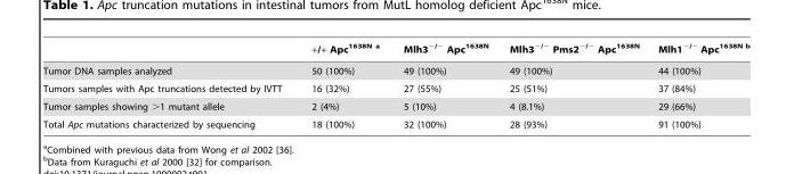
<table><thead><tr><td></td><td>+/+ Apc<sup>1638N</sup> a</td><td>Mlh3<sup>−/−</sup> Apc<sup>1638N</sup></td><td>Mlh3<sup>−/−</sup> Pms2<sup>−/−</sup> Apc<sup>1638N</sup></td><td>Mlh1<sup>−/−</sup> Apc<sup>1638N</sup> b</td></tr></thead><tbody><tr><td>Tumor DNA samples analyzed</td><td>50 (100%)</td><td>49 (100%)</td><td>49 (100%)</td><td>44 (100%)</td></tr><tr><td>Tumors samples with Apc truncations detected by IVTT</td><td>16 (32%)</td><td>27 (55%)</td><td>25 (51%)</td><td>37 (84%)</td></tr><tr><td>Tumor samples showing &gt;1 mutant allele</td><td>2 (4%)</td><td>5 (10%)</td><td>4 (8.1%)</td><td>29 (66%)</td></tr><tr><td>Total Apc mutations characterized by sequencing</td><td>18 (100%)</td><td>32 (100%)</td><td>28 (93%)</td><td>91 (100%)</td></tr></tbody></table>